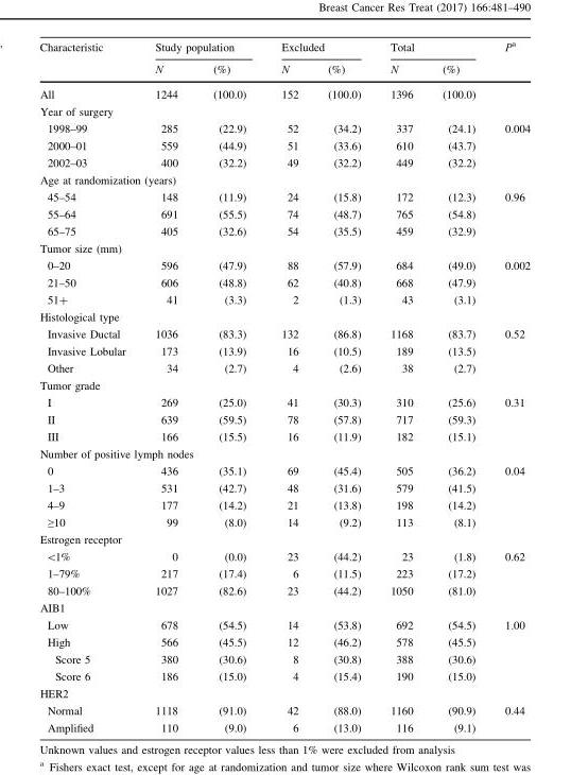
<table><thead><tr><td rowspan="2">Characteristic</td><td colspan="2">Study population</td><td colspan="2">Excluded</td><td colspan="2">Total</td><td rowspan="2">P<sup>a</sup></td></tr><tr><td>N</td><td>(%)</td><td>N</td><td>(%)</td><td>N</td><td>(%)</td></tr></thead><tbody><tr><td>All</td><td>1244</td><td>(100.0)</td><td>152</td><td>(100.0)</td><td>1396</td><td>(100.0)</td><td></td></tr><tr><td colspan="8">Year of surgery</td></tr><tr><td>1998–99</td><td>285</td><td>(22.9)</td><td>52</td><td>(34.2)</td><td>337</td><td>(24.1)</td><td>0.004</td></tr><tr><td>2000–01</td><td>559</td><td>(44.9)</td><td>51</td><td>(33.6)</td><td>610</td><td>(43.7)</td><td></td></tr><tr><td>2002–03</td><td>400</td><td>(32.2)</td><td>49</td><td>(32.2)</td><td>449</td><td>(32.2)</td><td></td></tr><tr><td colspan="8">Age at randomization (years)</td></tr><tr><td>45–54</td><td>148</td><td>(11.9)</td><td>24</td><td>(15.8)</td><td>172</td><td>(12.3)</td><td>0.96</td></tr><tr><td>55–64</td><td>691</td><td>(55.5)</td><td>74</td><td>(48.7)</td><td>765</td><td>(54.8)</td><td></td></tr><tr><td>65–75</td><td>405</td><td>(32.6)</td><td>54</td><td>(35.5)</td><td>459</td><td>(32.9)</td><td></td></tr><tr><td colspan="8">Tumor size (mm)</td></tr><tr><td>0–20</td><td>596</td><td>(47.9)</td><td>88</td><td>(57.9)</td><td>684</td><td>(49.0)</td><td>0.002</td></tr><tr><td>21–50</td><td>606</td><td>(48.8)</td><td>62</td><td>(40.8)</td><td>668</td><td>(47.9)</td><td></td></tr><tr><td>51+</td><td>41</td><td>(3.3)</td><td>2</td><td>(1.3)</td><td>43</td><td>(3.1)</td><td></td></tr><tr><td colspan="8">Histological type</td></tr><tr><td>Invasive Ductal</td><td>1036</td><td>(83.3)</td><td>132</td><td>(86.8)</td><td>1168</td><td>(83.7)</td><td>0.52</td></tr><tr><td>Invasive Lobular</td><td>173</td><td>(13.9)</td><td>16</td><td>(10.5)</td><td>189</td><td>(13.5)</td><td></td></tr><tr><td>Other</td><td>34</td><td>(2.7)</td><td>4</td><td>(2.6)</td><td>38</td><td>(2.7)</td><td></td></tr><tr><td colspan="8">Tumor grade</td></tr><tr><td>I</td><td>269</td><td>(25.0)</td><td>41</td><td>(30.3)</td><td>310</td><td>(25.6)</td><td>0.31</td></tr><tr><td>II</td><td>639</td><td>(59.5)</td><td>78</td><td>(57.8)</td><td>717</td><td>(59.3)</td><td></td></tr><tr><td>III</td><td>166</td><td>(15.5)</td><td>16</td><td>(11.9)</td><td>182</td><td>(15.1)</td><td></td></tr><tr><td colspan="8">Number of positive lymph nodes</td></tr><tr><td>0</td><td>436</td><td>(35.1)</td><td>69</td><td>(45.4)</td><td>505</td><td>(36.2)</td><td>0.04</td></tr><tr><td>1–3</td><td>531</td><td>(42.7)</td><td>48</td><td>(31.6)</td><td>579</td><td>(41.5)</td><td></td></tr><tr><td>4–9</td><td>177</td><td>(14.2)</td><td>21</td><td>(13.8)</td><td>198</td><td>(14.2)</td><td></td></tr><tr><td>≥10</td><td>99</td><td>(8.0)</td><td>14</td><td>(9.2)</td><td>113</td><td>(8.1)</td><td></td></tr><tr><td colspan="8">Estrogen receptor</td></tr><tr><td>&lt;1%</td><td>0</td><td>(0.0)</td><td>23</td><td>(44.2)</td><td>23</td><td>(1.8)</td><td>0.62</td></tr><tr><td>1–79%</td><td>217</td><td>(17.4)</td><td>6</td><td>(11.5)</td><td>223</td><td>(17.2)</td><td></td></tr><tr><td>80–100%</td><td>1027</td><td>(82.6)</td><td>23</td><td>(44.2)</td><td>1050</td><td>(81.0)</td><td></td></tr><tr><td colspan="8">AIB1</td></tr><tr><td>Low</td><td>678</td><td>(54.5)</td><td>14</td><td>(53.8)</td><td>692</td><td>(54.5)</td><td>1.00</td></tr><tr><td>High</td><td>566</td><td>(45.5)</td><td>12</td><td>(46.2)</td><td>578</td><td>(45.5)</td><td></td></tr><tr><td>Score 5</td><td>380</td><td>(30.6)</td><td>8</td><td>(30.8)</td><td>388</td><td>(30.6)</td><td></td></tr><tr><td>Score 6</td><td>186</td><td>(15.0)</td><td>4</td><td>(15.4)</td><td>190</td><td>(15.0)</td><td></td></tr><tr><td colspan="8">HER2</td></tr><tr><td>Normal</td><td>1118</td><td>(91.0)</td><td>42</td><td>(88.0)</td><td>1160</td><td>(90.9)</td><td>0.44</td></tr><tr><td>Amplified</td><td>110</td><td>(9.0)</td><td>6</td><td>(13.0)</td><td>116</td><td>(9.1)</td><td></td></tr></tbody></table>